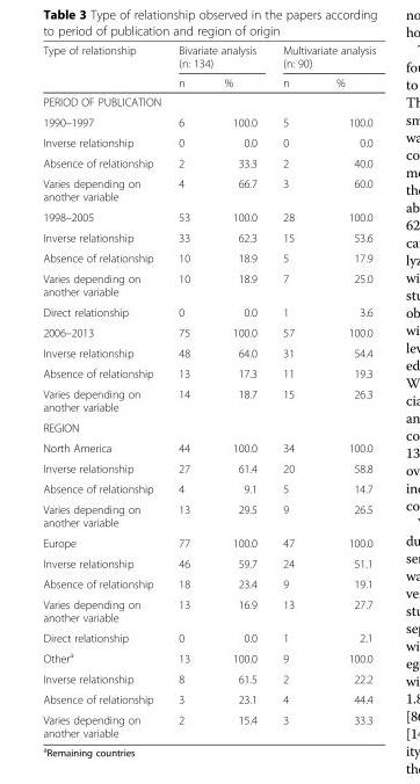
<table><thead><tr><td rowspan="2">Type of relationship</td><td colspan="2">Bivariate analysis (n: 134)</td><td colspan="2">Multivariate analysis (n: 90)</td></tr><tr><td>n</td><td>%</td><td>n</td><td>%</td></tr></thead><tbody><tr><td colspan="5">PERIOD OF PUBLICATION</td></tr><tr><td>1990–1997</td><td>6</td><td>100.0</td><td>5</td><td>100.0</td></tr><tr><td>Inverse relationship</td><td>0</td><td>0.0</td><td>0</td><td>0.0</td></tr><tr><td>Absence of relationship</td><td>2</td><td>33.3</td><td>2</td><td>40.0</td></tr><tr><td>Varies depending on another variable</td><td>4</td><td>66.7</td><td>3</td><td>60.0</td></tr><tr><td>1998–2005</td><td>53</td><td>100.0</td><td>28</td><td>100.0</td></tr><tr><td>Inverse relationship</td><td>33</td><td>62.3</td><td>15</td><td>53.6</td></tr><tr><td>Absence of relationship</td><td>10</td><td>18.9</td><td>5</td><td>17.9</td></tr><tr><td>Varies depending on another variable</td><td>10</td><td>18.9</td><td>7</td><td>25.0</td></tr><tr><td>Direct relationship</td><td>0</td><td>0.0</td><td>1</td><td>3.6</td></tr><tr><td>2006–2013</td><td>75</td><td>100.0</td><td>57</td><td>100.0</td></tr><tr><td>Inverse relationship</td><td>48</td><td>64.0</td><td>31</td><td>54.4</td></tr><tr><td>Absence of relationship</td><td>13</td><td>17.3</td><td>11</td><td>19.3</td></tr><tr><td>Varies depending on another variable</td><td>14</td><td>18.7</td><td>15</td><td>26.3</td></tr><tr><td colspan="5">REGION</td></tr><tr><td>North America</td><td>44</td><td>100.0</td><td>34</td><td>100.0</td></tr><tr><td>Inverse relationship</td><td>27</td><td>61.4</td><td>20</td><td>58.8</td></tr><tr><td>Absence of relationship</td><td>4</td><td>9.1</td><td>5</td><td>14.7</td></tr><tr><td>Varies depending on another variable</td><td>13</td><td>29.5</td><td>9</td><td>26.5</td></tr><tr><td>Europe</td><td>77</td><td>100.0</td><td>47</td><td>100.0</td></tr><tr><td>Inverse relationship</td><td>46</td><td>59.7</td><td>24</td><td>51.1</td></tr><tr><td>Absence of relationship</td><td>18</td><td>23.4</td><td>9</td><td>19.1</td></tr><tr><td>Varies depending on another variable</td><td>13</td><td>16.9</td><td>13</td><td>27.7</td></tr><tr><td>Direct relationship</td><td>0</td><td>0.0</td><td>1</td><td>2.1</td></tr><tr><td>Other<sup>a</sup></td><td>13</td><td>100.0</td><td>9</td><td>100.0</td></tr><tr><td>Inverse relationship</td><td>8</td><td>61.5</td><td>2</td><td>22.2</td></tr><tr><td>Absence of relationship</td><td>3</td><td>23.1</td><td>4</td><td>44.4</td></tr><tr><td>Varies depending on another variable</td><td>2</td><td>15.4</td><td>3</td><td>33.3</td></tr></tbody></table>